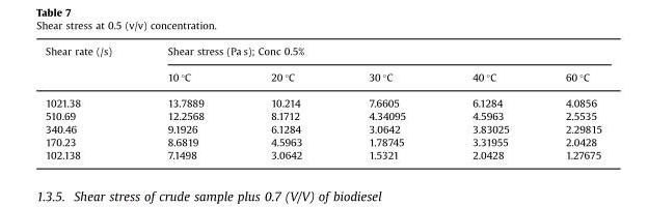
<table><thead><tr><td rowspan="2">Shear rate (/s)</td><td colspan="5">Shear stress (Pa s); Conc 0.5%</td></tr><tr><td>10 °C</td><td>20 °C</td><td>30 °C</td><td>40 °C</td><td>60 °C</td></tr></thead><tbody><tr><td>1021.38</td><td>13.7889</td><td>10.214</td><td>7.6605</td><td>6.1284</td><td>4.0856</td></tr><tr><td>510.69</td><td>12.2568</td><td>8.1712</td><td>4.34095</td><td>4.5963</td><td>2.5535</td></tr><tr><td>340.46</td><td>9.1926</td><td>6.1284</td><td>3.0642</td><td>3.83025</td><td>2.29815</td></tr><tr><td>170.23</td><td>8.6819</td><td>4.5963</td><td>1.78745</td><td>3.31955</td><td>2.0428</td></tr><tr><td>102.138</td><td>7.1498</td><td>3.0642</td><td>1.5321</td><td>2.0428</td><td>1.27675</td></tr></tbody></table>